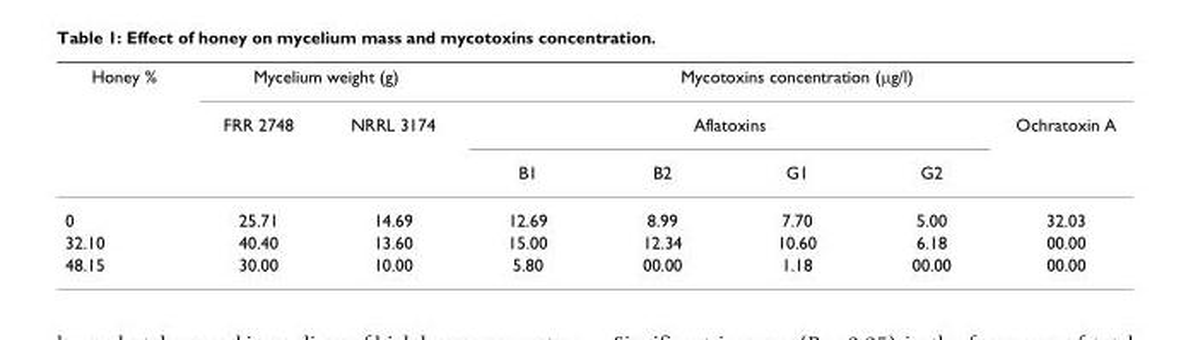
<table><thead><tr><td rowspan="3">Honey %</td><td colspan="2">Mycelium weight (g)</td><td colspan="5">Mycotoxins concentration (µg/l)</td></tr><tr><td rowspan="2">FRR 2748</td><td rowspan="2">NRRL 3174</td><td colspan="4">Aflatoxins</td><td rowspan="2">Ochratoxin A</td></tr><tr><td>B1</td><td>B2</td><td>G1</td><td>G2</td></tr></thead><tbody><tr><td>0</td><td>25.71</td><td>14.69</td><td>12.69</td><td>8.99</td><td>7.70</td><td>5.00</td><td>32.03</td></tr><tr><td>32.10</td><td>40.40</td><td>13.60</td><td>15.00</td><td>12.34</td><td>10.60</td><td>6.18</td><td>00.00</td></tr><tr><td>48.15</td><td>30.00</td><td>10.00</td><td>5.80</td><td>00.00</td><td>1.18</td><td>00.00</td><td>00.00</td></tr></tbody></table>